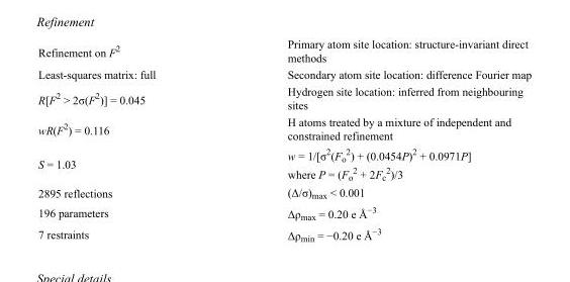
<table><tbody><tr><td>Refinement on F<sup>2</sup></td><td>Primary atom site location: structure-invariant direct methods</td></tr><tr><td>Least-squares matrix: full</td><td>Secondary atom site location: difference Fourier map</td></tr><tr><td>R[F<sup>2</sup> &gt; 2σ(F<sup>2</sup>)] = 0.045</td><td>Hydrogen site location: inferred from neighbouring sites</td></tr><tr><td>wR(F<sup>2</sup>) = 0.116</td><td>H atoms treated by a mixture of independent and constrained refinement</td></tr><tr><td>S = 1.03</td><td>w = 1/[σ<sup>2</sup>(F<sub>o</sub> <sup>2</sup>) + (0.0454P)<sup>2</sup> + 0.0971P] where P = (F<sub>o</sub> <sup>2</sup> + 2F<sub>c</sub> <sup>2</sup>)/3</td></tr><tr><td>2895 reflections</td><td>(Δ/σ)<sub>max</sub> &lt; 0.001</td></tr><tr><td>196 parameters</td><td>Δρ<sub>max</sub> = 0.20 e Å<sup>−3</sup></td></tr><tr><td>7 restraints</td><td>Δρ<sub>min</sub> = −0.20 e Å<sup>−3</sup></td></tr></tbody></table>